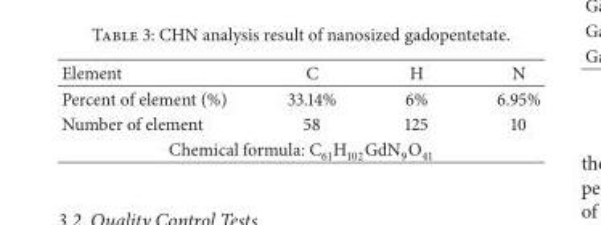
<table><thead><tr><td>Element</td><td>C</td><td>H</td><td>N</td></tr></thead><tbody><tr><td>Percent of element (%)</td><td>33.14%</td><td>6%</td><td>6.95%</td></tr><tr><td>Number of element</td><td>58</td><td>125</td><td>10</td></tr><tr><td colspan="4">Chemical formula: C<sub>61</sub>H<sub>102</sub>GdN<sub>9</sub>O<sub>41</sub></td></tr></tbody></table>